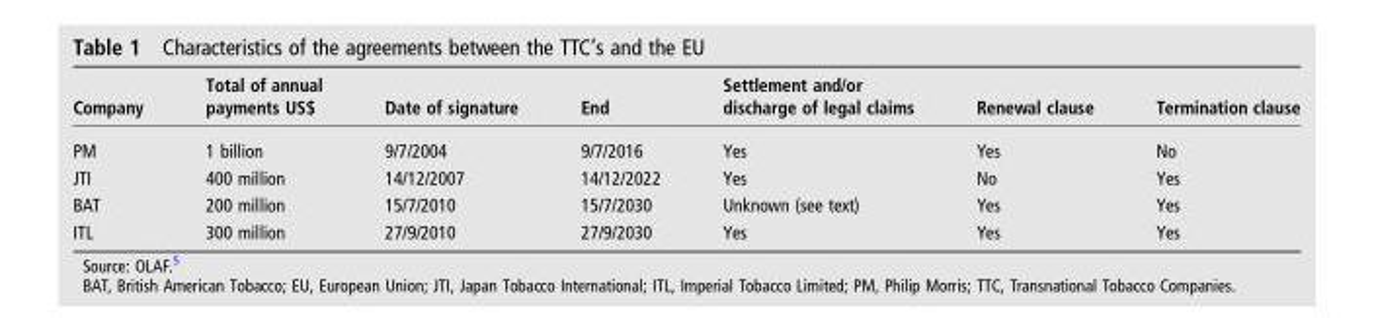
<table><thead><tr><td>Company</td><td>Total of annual payments US$</td><td>Date of signature</td><td>End</td><td>Settlement and/or discharge of legal claims</td><td>Renewal clause</td><td>Termination clause</td></tr></thead><tbody><tr><td>PM</td><td>1 billion</td><td>9/7/2004</td><td>9/7/2016</td><td>Yes</td><td>Yes</td><td>No</td></tr><tr><td>JTI</td><td>400 million</td><td>14/12/2007</td><td>14/12/2022</td><td>Yes</td><td>No</td><td>Yes</td></tr><tr><td>BAT</td><td>200 million</td><td>15/7/2010</td><td>15/7/2030</td><td>Unknown (see text)</td><td>Yes</td><td>Yes</td></tr><tr><td>ITL</td><td>300 million</td><td>27/9/2010</td><td>27/9/2030</td><td>Yes</td><td>Yes</td><td>Yes</td></tr></tbody></table>